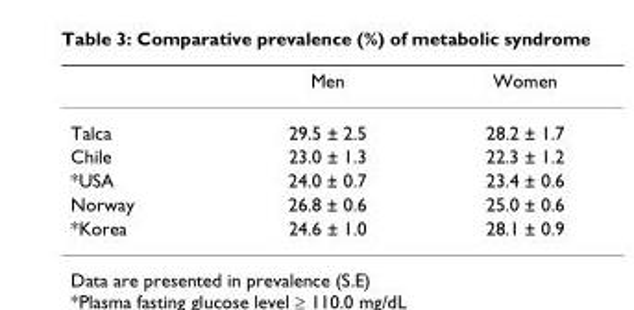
<table><thead><tr><td></td><td>Men</td><td>Women</td></tr></thead><tbody><tr><td>Talca</td><td>29.5 ± 2.5</td><td>28.2 ± 1.7</td></tr><tr><td>Chile</td><td>23.0 ± 1.3</td><td>22.3 ± 1.2</td></tr><tr><td>*USA</td><td>24.0 ± 0.7</td><td>23.4 ± 0.6</td></tr><tr><td>Norway</td><td>26.8 ± 0.6</td><td>25.0 ± 0.6</td></tr><tr><td>*Korea</td><td>24.6 ± 1.0</td><td>28.1 ± 0.9</td></tr></tbody></table>